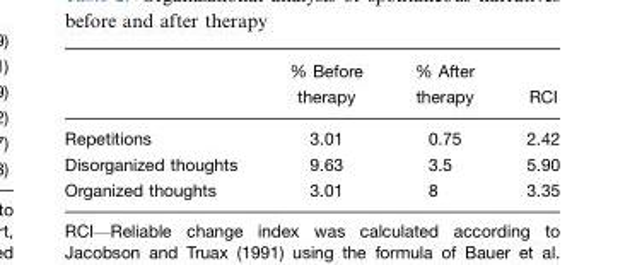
<table><thead><tr><td></td><td>% Before therapy</td><td>% After therapy</td><td>RCI</td></tr></thead><tbody><tr><td>Repetitions</td><td>3.01</td><td>0.75</td><td>2.42</td></tr><tr><td>Disorganized thoughts</td><td>9.63</td><td>3.5</td><td>5.90</td></tr><tr><td>Organized thoughts</td><td>3.01</td><td>8</td><td>3.35</td></tr></tbody></table>